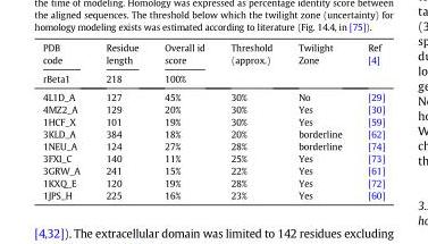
<table><thead><tr><td rowspan="2">PDB code rBeta1</td><td rowspan="2">Residue length 218</td><td rowspan="2">Overall id score 100%</td><td rowspan="2">Threshold (approx.)</td><td rowspan="2">Twilight Zone</td><td rowspan="2">Ref [4]</td></tr><tr></tr></thead><tbody><tr><td>4L1D_A</td><td>127</td><td>45%</td><td>30%</td><td>No</td><td>[29]</td></tr><tr><td>4MZ2_A</td><td>129</td><td>20%</td><td>30%</td><td>Yes</td><td>[30]</td></tr><tr><td>1HCF_X</td><td>101</td><td>19%</td><td>30%</td><td>Yes</td><td>[59]</td></tr><tr><td>3KLD_A</td><td>384</td><td>18%</td><td>20%</td><td>borderline</td><td>[62]</td></tr><tr><td>1NEU_A</td><td>124</td><td>27%</td><td>28%</td><td>borderline</td><td>[74]</td></tr><tr><td>3FXI_C</td><td>140</td><td>11%</td><td>25%</td><td>Yes</td><td>[73]</td></tr><tr><td>3GRW_A</td><td>241</td><td>15%</td><td>22%</td><td>Yes</td><td>[61]</td></tr><tr><td>1KXQ_E</td><td>120</td><td>19%</td><td>28%</td><td>Yes</td><td>[72]</td></tr><tr><td>1JPS_H</td><td>225</td><td>16%</td><td>23%</td><td>Yes</td><td>[60]</td></tr></tbody></table>